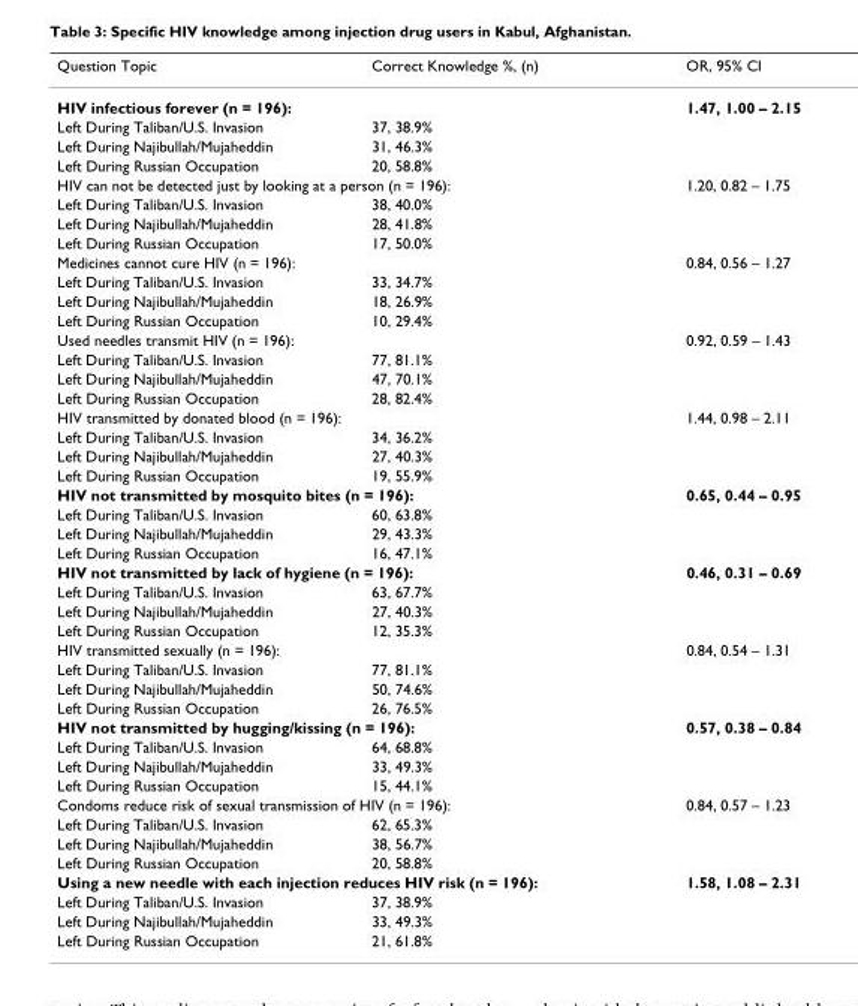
<table><thead><tr><td>Question Topic</td><td>Correct Knowledge %, (n)</td><td>OR, 95% CI</td></tr></thead><tbody><tr><td colspan="2">HIV infectious forever (n = 196):</td><td>1.47, 1.00 – 2.15</td></tr><tr><td>Left During Taliban/U.S. Invasion</td><td>37, 38.9%</td><td></td></tr><tr><td>Left During Najibullah/Mujaheddin</td><td>31, 46.3%</td><td></td></tr><tr><td>Left During Russian Occupation</td><td>20, 58.8%</td><td></td></tr><tr><td colspan="2">HIV can not be detected just by looking at a person (n = 196):</td><td>1.20, 0.82 – 1.75</td></tr><tr><td>Left During Taliban/U.S. Invasion</td><td>38, 40.0%</td><td></td></tr><tr><td>Left During Najibullah/Mujaheddin</td><td>28, 41.8%</td><td></td></tr><tr><td>Left During Russian Occupation</td><td>17, 50.0%</td><td></td></tr><tr><td>Medicines cannot cure HIV (n = 196):</td><td></td><td>0.84, 0.56 – 1.27</td></tr><tr><td>Left During Taliban/U.S. Invasion</td><td>33, 34.7%</td><td></td></tr><tr><td>Left During Najibullah/Mujaheddin</td><td>18, 26.9%</td><td></td></tr><tr><td>Left During Russian Occupation</td><td>10, 29.4%</td><td></td></tr><tr><td>Used needles transmit HIV (n = 196):</td><td></td><td>0.92, 0.59 – 1.43</td></tr><tr><td>Left During Taliban/U.S. Invasion</td><td>77, 81.1%</td><td></td></tr><tr><td>Left During Najibullah/Mujaheddin</td><td>47, 70.1%</td><td></td></tr><tr><td>Left During Russian Occupation</td><td>28, 82.4%</td><td></td></tr><tr><td colspan="2">HIV transmitted by donated blood (n = 196):</td><td>1.44, 0.98 – 2.11</td></tr><tr><td>Left During Taliban/U.S. Invasion</td><td>34, 36.2%</td><td></td></tr><tr><td>Left During Najibullah/Mujaheddin</td><td>27, 40.3%</td><td></td></tr><tr><td>Left During Russian Occupation</td><td>19, 55.9%</td><td></td></tr><tr><td colspan="2">HIV not transmitted by mosquito bites (n = 196):</td><td>0.65, 0.44 – 0.95</td></tr><tr><td>Left During Taliban/U.S. Invasion</td><td>60, 63.8%</td><td></td></tr><tr><td>Left During Najibullah/Mujaheddin</td><td>29, 43.3%</td><td></td></tr><tr><td>Left During Russian Occupation</td><td>16, 47.1%</td><td></td></tr><tr><td colspan="2">HIV not transmitted by lack of hygiene (n = 196):</td><td>0.46, 0.31 – 0.69</td></tr><tr><td>Left During Taliban/U.S. Invasion</td><td>63, 67.7%</td><td></td></tr><tr><td>Left During Najibullah/Mujaheddin</td><td>27, 40.3%</td><td></td></tr><tr><td>Left During Russian Occupation</td><td>12, 35.3%</td><td></td></tr><tr><td colspan="2">HIV transmitted sexually (n = 196):</td><td>0.84, 0.54 – 1.31</td></tr><tr><td>Left During Taliban/U.S. Invasion</td><td>77, 81.1%</td><td></td></tr><tr><td>Left During Najibullah/Mujaheddin</td><td>50, 74.6%</td><td></td></tr><tr><td>Left During Russian Occupation</td><td>26, 76.5%</td><td></td></tr><tr><td colspan="2">HIV not transmitted by hugging/kissing (n = 196):</td><td>0.57, 0.38 – 0.84</td></tr><tr><td>Left During Taliban/U.S. Invasion</td><td>64, 68.8%</td><td></td></tr><tr><td>Left During Najibullah/Mujaheddin</td><td>33, 49.3%</td><td></td></tr><tr><td>Left During Russian Occupation</td><td>15, 44.1%</td><td></td></tr><tr><td colspan="2">Condoms reduce risk of sexual transmission of HIV (n = 196):</td><td>0.84, 0.57 – 1.23</td></tr><tr><td>Left During Taliban/U.S. Invasion</td><td>62, 65.3%</td><td></td></tr><tr><td>Left During Najibullah/Mujaheddin</td><td>38, 56.7%</td><td></td></tr><tr><td>Left During Russian Occupation</td><td>20, 58.8%</td><td></td></tr><tr><td colspan="2">Using a new needle with each injection reduces HIV risk (n = 196):</td><td>1.58, 1.08 – 2.31</td></tr><tr><td>Left During Taliban/U.S. Invasion</td><td>37, 38.9%</td><td></td></tr><tr><td>Left During Najibullah/Mujaheddin</td><td>33, 49.3%</td><td></td></tr><tr><td>Left During Russian Occupation</td><td>21, 61.8%</td><td></td></tr></tbody></table>